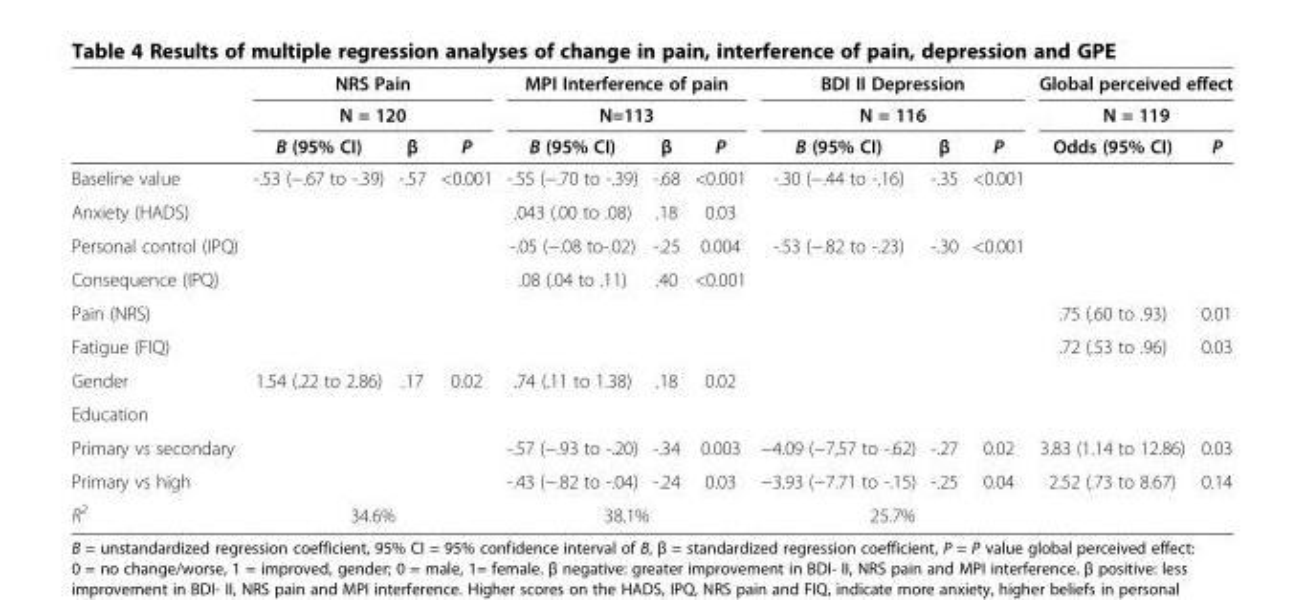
<table><thead><tr><td rowspan="3"></td><td rowspan="2" colspan="3">NRS Pain N = 120</td><td rowspan="2" colspan="3">MPI Interference of pain N=113</td><td rowspan="2" colspan="3">BDI II Depression N = 116</td><td rowspan="2" colspan="2">Global perceived effect N = 119</td></tr><tr></tr><tr><td>B (95% CI)</td><td>β</td><td>P</td><td>B (95% CI)</td><td>β</td><td>P</td><td>B (95% CI)</td><td>β</td><td>P</td><td>Odds (95% CI)</td><td>P</td></tr></thead><tbody><tr><td>Baseline value</td><td>-.53 (−.67 to -.39)</td><td>-.57</td><td>&lt;0.001</td><td>-.55 (−.70 to -.39)</td><td>-.68</td><td>&lt;0.001</td><td>-.30 (−.44 to -.16)</td><td>-.35</td><td>&lt;0.001</td><td></td><td></td></tr><tr><td>Anxiety (HADS)</td><td></td><td></td><td></td><td>.043 (.00 to .08)</td><td>.18</td><td>0.03</td><td></td><td></td><td></td><td></td><td></td></tr><tr><td>Personal control (IPQ)</td><td></td><td></td><td></td><td>-.05 (−.08 to-.02)</td><td>-.25</td><td>0.004</td><td>-.53 (−.82 to -.23)</td><td>-.30</td><td>&lt;0.001</td><td></td><td></td></tr><tr><td>Consequence (IPQ)</td><td></td><td></td><td></td><td>.08 (.04 to .11)</td><td>.40</td><td>&lt;0.001</td><td></td><td></td><td></td><td></td><td></td></tr><tr><td>Pain (NRS)</td><td></td><td></td><td></td><td></td><td></td><td></td><td></td><td></td><td></td><td>.75 (.60 to .93)</td><td>0.01</td></tr><tr><td>Fatigue (FIQ)</td><td></td><td></td><td></td><td></td><td></td><td></td><td></td><td></td><td></td><td>.72 (.53 to .96)</td><td>0.03</td></tr><tr><td>Gender</td><td>1.54 (.22 to 2.86)</td><td>.17</td><td>0.02</td><td>.74 (.11 to 1.38)</td><td>.18</td><td>0.02</td><td></td><td></td><td></td><td></td><td></td></tr><tr><td colspan="12">Education</td></tr><tr><td>Primary vs secondary</td><td></td><td></td><td></td><td>-.57 (−.93 to -.20)</td><td>-.34</td><td>0.003</td><td>−4.09 (−7,57 to -.62)</td><td>-.27</td><td>0.02</td><td>3.83 (1.14 to 12.86)</td><td>0.03</td></tr><tr><td>Primary vs high</td><td></td><td></td><td></td><td>-.43 (−.82 to -.04)</td><td>-.24</td><td>0.03</td><td>−3.93 (−7.71 to -.15)</td><td>-.25</td><td>0.04</td><td>2.52 (.73 to 8.67)</td><td>0.14</td></tr><tr><td>R<sup>2</sup></td><td colspan="3">34.6%</td><td colspan="3">38.1%</td><td colspan="3">25.7%</td><td colspan="2"></td></tr></tbody></table>